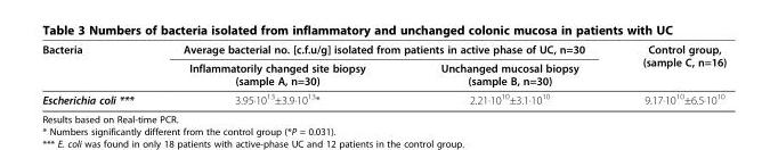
<table><thead><tr><td rowspan="2">Bacteria</td><td colspan="2">Average bacterial no. [c.f.u/g] isolated from patients in active phase of UC, n=30</td><td rowspan="2">Control group, (sample C, n=16)</td></tr><tr><td>Inflammatorily changed site biopsy (sample A, n=30)</td><td>Unchanged mucosal biopsy (sample B, n=30)</td></tr></thead><tbody><tr><td>Escherichia coli ***</td><td>3.95·10<sup>13</sup>±3.9·10<sup>13</sup>*</td><td>2.21·10<sup>10</sup>±3.1·10<sup>10</sup></td><td>9.17·10<sup>10</sup>±6.5·10<sup>10</sup></td></tr></tbody></table>